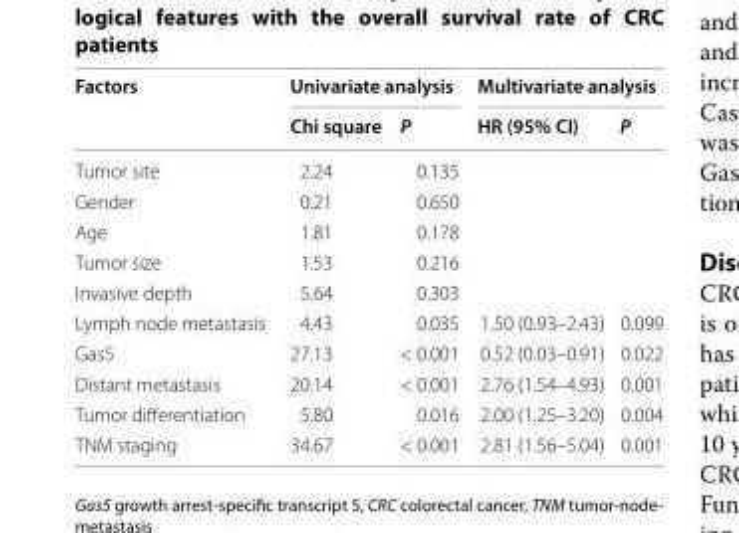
<table><thead><tr><td rowspan="2">Factors</td><td colspan="2">Univariate analysis</td><td colspan="2">Multivariate analysis</td></tr><tr><td>Chi square</td><td>P</td><td>HR (95% CI)</td><td>P</td></tr></thead><tbody><tr><td>Tumor site</td><td>2.24</td><td>0.135</td><td></td><td></td></tr><tr><td>Gender</td><td>0.21</td><td>0.650</td><td></td><td></td></tr><tr><td>Age</td><td>1.81</td><td>0.178</td><td></td><td></td></tr><tr><td>Tumor size</td><td>1.53</td><td>0.216</td><td></td><td></td></tr><tr><td>Invasive depth</td><td>5.64</td><td>0.303</td><td></td><td></td></tr><tr><td>Lymph node metastasis</td><td>4.43</td><td>0.035</td><td>1.50 (0.93–2.43)</td><td>0.099</td></tr><tr><td>Gas5</td><td>27.13</td><td>&lt; 0.001</td><td>0.52 (0.03–0.91)</td><td>0.022</td></tr><tr><td>Distant metastasis</td><td>20.14</td><td>&lt; 0.001</td><td>2.76 (1.54–4.93)</td><td>0.001</td></tr><tr><td>Tumor differentiation</td><td>5.80</td><td>0.016</td><td>2.00 (1.25–3.20)</td><td>0.004</td></tr><tr><td>TNM staging</td><td>34.67</td><td>&lt; 0.001</td><td>2.81 (1.56–5.04)</td><td>0.001</td></tr></tbody></table>